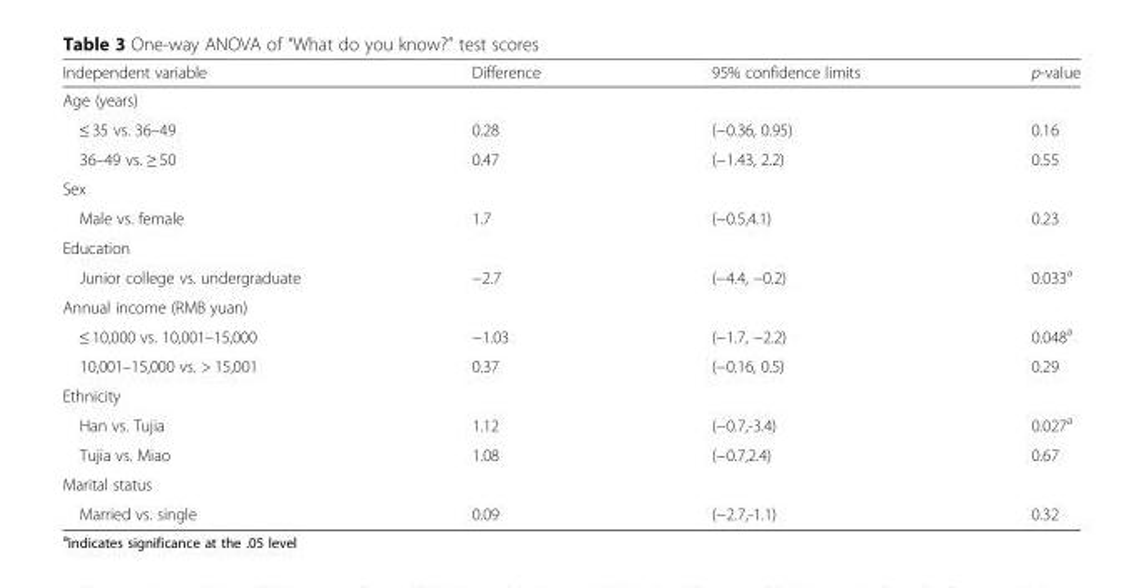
<table><thead><tr><td>Independent variable</td><td>Difference</td><td>95% confidence limits</td><td>p-value</td></tr></thead><tbody><tr><td colspan="4">Age (years)</td></tr><tr><td>≤ 35 vs. 36–49</td><td>0.28</td><td>(−0.36, 0.95)</td><td>0.16</td></tr><tr><td>36–49 vs. ≥ 50</td><td>0.47</td><td>(−1.43, 2.2)</td><td>0.55</td></tr><tr><td colspan="4">Sex</td></tr><tr><td>Male vs. female</td><td>1.7</td><td>(−0.5,4.1)</td><td>0.23</td></tr><tr><td colspan="4">Education</td></tr><tr><td>Junior college vs. undergraduate</td><td>−2.7</td><td>(−4.4, −0.2)</td><td>0.033<sup>a</sup></td></tr><tr><td colspan="4">Annual income (RMB yuan)</td></tr><tr><td>≤ 10,000 vs. 10,001–15,000</td><td>−1.03</td><td>(−1.7, −2.2)</td><td>0.048<sup>a</sup></td></tr><tr><td>10,001–15,000 vs. &gt; 15,001</td><td>0.37</td><td>(−0.16, 0.5)</td><td>0.29</td></tr><tr><td colspan="4">Ethnicity</td></tr><tr><td>Han vs. Tujia</td><td>1.12</td><td>(−0.7,-3.4)</td><td>0.027<sup>a</sup></td></tr><tr><td>Tujia vs. Miao</td><td>1.08</td><td>(−0.7,2.4)</td><td>0.67</td></tr><tr><td colspan="4">Marital status</td></tr><tr><td>Married vs. single</td><td>0.09</td><td>(−2.7,-1.1)</td><td>0.32</td></tr></tbody></table>